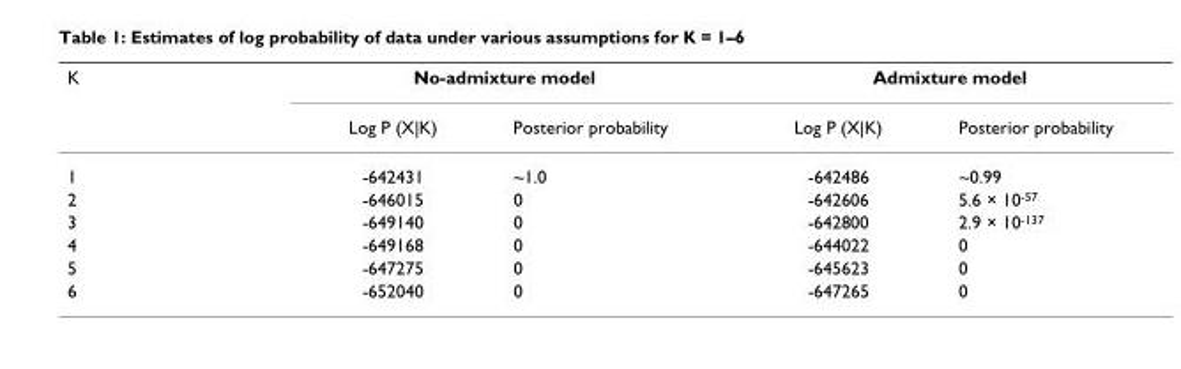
<table><thead><tr><td rowspan="2">K</td><td colspan="2">No-admixture model</td><td colspan="2">Admixture model</td></tr><tr><td>Log P (X|K)</td><td>Posterior probability</td><td>Log P (X|K)</td><td>Posterior probability</td></tr></thead><tbody><tr><td>1</td><td>-642431</td><td>~1.0</td><td>-642486</td><td>~0.99</td></tr><tr><td>2</td><td>-646015</td><td>0</td><td>-642606</td><td>5.6 × 10<sup>-57</sup></td></tr><tr><td>3</td><td>-649140</td><td>0</td><td>-642800</td><td>2.9 × 10<sup>-137</sup></td></tr><tr><td>4</td><td>-649168</td><td>0</td><td>-644022</td><td>0</td></tr><tr><td>5</td><td>-647275</td><td>0</td><td>-645623</td><td>0</td></tr><tr><td>6</td><td>-652040</td><td>0</td><td>-647265</td><td>0</td></tr></tbody></table>